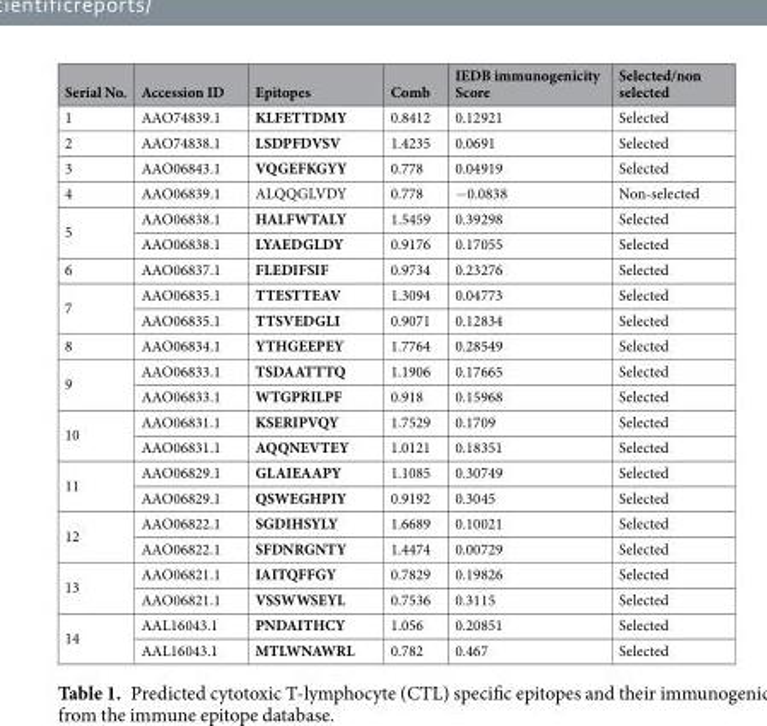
<table><thead><tr><td>Serial No.</td><td>Accession ID</td><td>Epitopes</td><td>Comb</td><td>IEDB immunogenicity Score</td><td>Selected/non selected</td></tr></thead><tbody><tr><td>1</td><td>AAO74839.1</td><td>KLFETTDMY</td><td>0.8412</td><td>0.12921</td><td>Selected</td></tr><tr><td>2</td><td>AAO74838.1</td><td>LSDPFDVSV</td><td>1.4235</td><td>0.0691</td><td>Selected</td></tr><tr><td>3</td><td>AAO06843.1</td><td>VQGEFKGYY</td><td>0.778</td><td>0.04919</td><td>Selected</td></tr><tr><td>4</td><td>AAO06839.1</td><td>ALQQGLVDY</td><td>0.778</td><td>−0.0838</td><td>Non-selected</td></tr><tr><td rowspan="2">5</td><td>AAO06838.1</td><td>HALFWTALY</td><td>1.5459</td><td>0.39298</td><td>Selected</td></tr><tr><td>AAO06838.1</td><td>LYAEDGLDY</td><td>0.9176</td><td>0.17055</td><td>Selected</td></tr><tr><td>6</td><td>AAO06837.1</td><td>FLEDIFSIF</td><td>0.9734</td><td>0.23276</td><td>Selected</td></tr><tr><td rowspan="2">7</td><td>AAO06835.1</td><td>TTESTTEAV</td><td>1.3094</td><td>0.04773</td><td>Selected</td></tr><tr><td>AAO06835.1</td><td>TTSVEDGLI</td><td>0.9071</td><td>0.12834</td><td>Selected</td></tr><tr><td>8</td><td>AAO06834.1</td><td>YTHGEEPEY</td><td>1.7764</td><td>0.28549</td><td>Selected</td></tr><tr><td rowspan="2">9</td><td>AAO06833.1</td><td>TSDAATTTQ</td><td>1.1906</td><td>0.17665</td><td>Selected</td></tr><tr><td>AAO06833.1</td><td>WTGPRILPF</td><td>0.918</td><td>0.15968</td><td>Selected</td></tr><tr><td rowspan="2">10</td><td>AAO06831.1</td><td>KSERIPVQY</td><td>1.7529</td><td>0.1709</td><td>Selected</td></tr><tr><td>AAO06831.1</td><td>AQQNEVTEY</td><td>1.0121</td><td>0.18351</td><td>Selected</td></tr><tr><td rowspan="2">11</td><td>AAO06829.1</td><td>GLAIEAAPY</td><td>1.1085</td><td>0.30749</td><td>Selected</td></tr><tr><td>AAO06829.1</td><td>QSWEGHPIY</td><td>0.9192</td><td>0.3045</td><td>Selected</td></tr><tr><td rowspan="2">12</td><td>AAO06822.1</td><td>SGDIHSYLY</td><td>1.6689</td><td>0.10021</td><td>Selected</td></tr><tr><td>AAO06822.1</td><td>SFDNRGNTY</td><td>1.4474</td><td>0.00729</td><td>Selected</td></tr><tr><td rowspan="2">13</td><td>AAO06821.1</td><td>IAITQFFGY</td><td>0.7829</td><td>0.19826</td><td>Selected</td></tr><tr><td>AAO06821.1</td><td>VSSWWSEYL</td><td>0.7536</td><td>0.3115</td><td>Selected</td></tr><tr><td rowspan="2">14</td><td>AAL16043.1</td><td>PNDAITHCY</td><td>1.056</td><td>0.20851</td><td>Selected</td></tr><tr><td>AAL16043.1</td><td>MTLWNAWRL</td><td>0.782</td><td>0.467</td><td>Selected</td></tr></tbody></table>